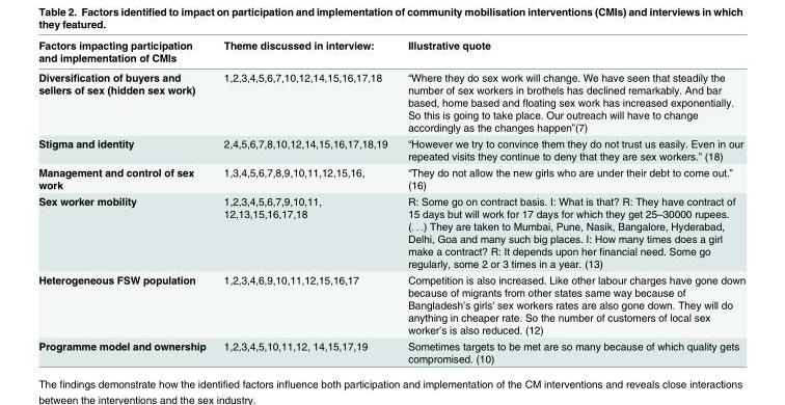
<table><thead><tr><td>Factors impacting participation and implementation of CMIs</td><td>Theme discussed in interview:</td><td>Illustrative quote</td></tr></thead><tbody><tr><td>Diversification of buyers and sellers of sex (hidden sex work)</td><td>1,2,3,4,5,6,7,10,12,14,15,16,17,18</td><td>“Where they do sex work will change. We have seen that steadily the number of sex workers in brothels has declined remarkably. And bar based, home based and floating sex work has increased exponentially. So this is going to take place. Our outreach will have to change accordingly as the changes happen”(7)</td></tr><tr><td>Stigma and identity</td><td>2,4,5,6,7,8,10,12,14,15,16,17,18,19</td><td>“However we try to convince them they do not trust us easily. Even in our repeated visits they continue to deny that they are sex workers.” (18)</td></tr><tr><td>Management and control of sex work</td><td>1,3,4,5,6,7,8,9,10,11,12,15,16,</td><td>“They do not allow the new girls who are under their debt to come out.” (16)</td></tr><tr><td>Sex worker mobility</td><td>1,2,3,4,5,6,7,9,10,11, 12,13,15,16,17,18</td><td>R: Some go on contract basis. I: What is that? R: They have contract of 15 days but will work for 17 days for which they get 25–30000 rupees. (. . .) They are taken to Mumbai, Pune, Nasik, Bangalore, Hyderabad, Delhi, Goa and many such big places. I: How many times does a girl make a contract? R: It depends upon her financial need. Some go regularly, some 2 or 3 times in a year. (13)</td></tr><tr><td>Heterogeneous FSW population</td><td>1,2,3,4,6,9,10,11,12,15,16,17</td><td>Competition is also increased. Like other labour charges have gone down because of migrants from other states same way because of Bangladesh’s girls&#x27; sex workers rates are also gone down. They will do anything in cheaper rate. So the number of customers of local sex worker’s is also reduced. (12)</td></tr><tr><td>Programme model and ownership</td><td>1,2,3,4,5,10,11,12, 14,15,17,19</td><td>Sometimes targets to be met are so many because of which quality gets compromised. (10)</td></tr></tbody></table>